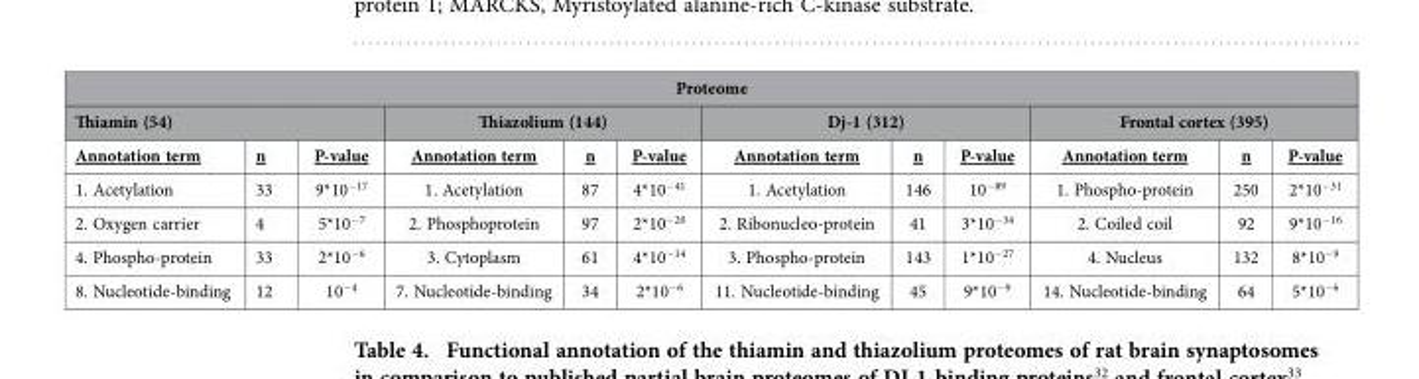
<table><thead><tr><td colspan="12">Proteome</td></tr><tr><td colspan="3">Thiamin (54)</td><td colspan="3">Thiazolium (144)</td><td colspan="3">Dj-1 (312)</td><td colspan="3">Frontal cortex (395)</td></tr><tr><td>Annotation term</td><td>n</td><td>P-value</td><td>Annotation term</td><td>n</td><td>P-value</td><td>Annotation term</td><td>n</td><td>P-value</td><td>Annotation term</td><td>n</td><td>P-value</td></tr></thead><tbody><tr><td>1. Acetylation</td><td>33</td><td>9*10<sup>−17</sup></td><td>1. Acetylation</td><td>87</td><td>4*10<sup>−41</sup></td><td>1. Acetylation</td><td>146</td><td>10<sup>−89</sup></td><td>1. Phospho-protein</td><td>250</td><td>2*10<sup>−31</sup></td></tr><tr><td>2. Oxygen carrier</td><td>4</td><td>5*10<sup>−7</sup></td><td>2. Phosphoprotein</td><td>97</td><td>2*10<sup>−20</sup></td><td>2. Ribonucleo-protein</td><td>41</td><td>3*10<sup>−34</sup></td><td>2. Coiled coil</td><td>92</td><td>9*10<sup>−16</sup></td></tr><tr><td>4. Phospho-protein</td><td>33</td><td>2*10<sup>−6</sup></td><td>3. Cytoplasm</td><td>61</td><td>4*10<sup>−14</sup></td><td>3. Phospho-protein</td><td>143</td><td>1*10<sup>−27</sup></td><td>4. Nucleus</td><td>132</td><td>8*10<sup>−9</sup></td></tr><tr><td>8. Nucleotide-binding</td><td>12</td><td>10<sup>−4</sup></td><td>7. Nucleotide-binding</td><td>34</td><td>2*10<sup>−6</sup></td><td>11. Nucleotide-binding</td><td>45</td><td>9*10<sup>−9</sup></td><td>14. Nucleotide-binding</td><td>64</td><td>5*10<sup>−6</sup></td></tr></tbody></table>